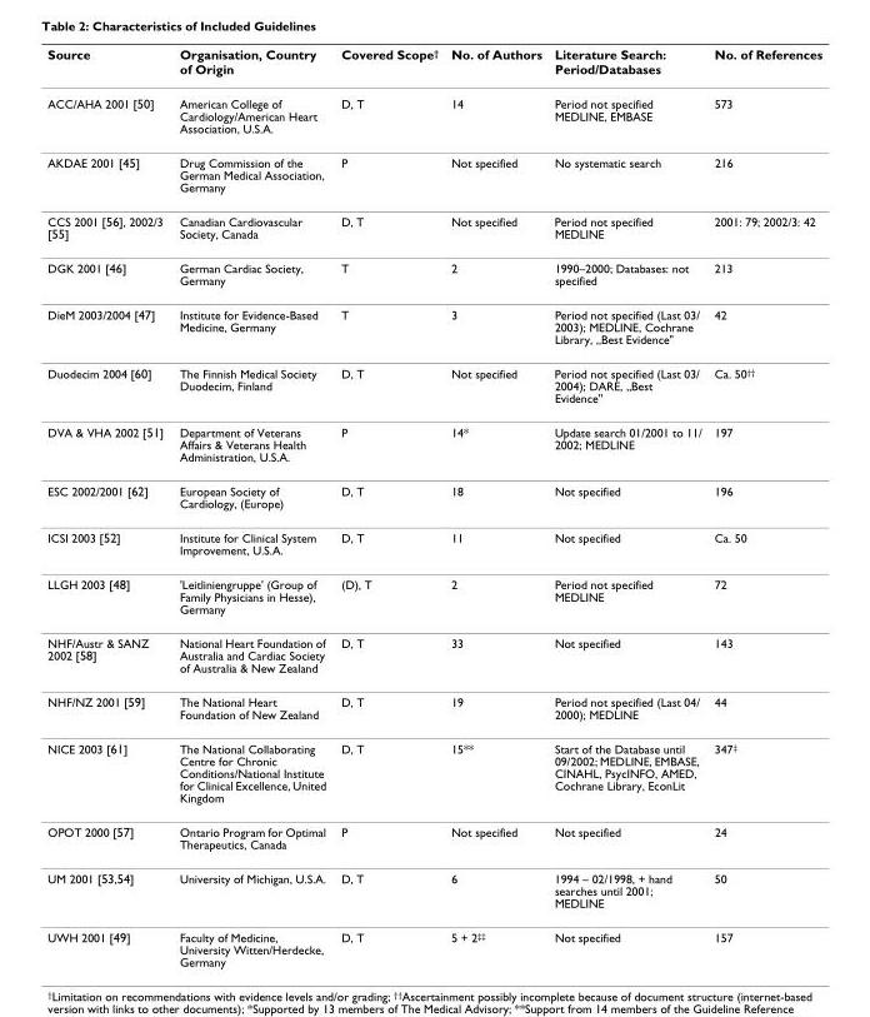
<table><thead><tr><td>Source</td><td>Organisation, Country of Origin</td><td>Covered Scope<sup>†</sup></td><td>No. of Authors</td><td>Literature Search: Period/Databases</td><td>No. of References</td></tr></thead><tbody><tr><td>ACC/AHA 2001 [50]</td><td>American College of Cardiology/American Heart Association, U.S.A.</td><td>D, T</td><td>14</td><td>Period not specified MEDLINE, EMBASE</td><td>573</td></tr><tr><td>AKDAE 2001 [45]</td><td>Drug Commission of the German Medical Association, Germany</td><td>P</td><td>Not specified</td><td>No systematic search</td><td>216</td></tr><tr><td>CCS 2001 [56], 2002/3 [55]</td><td>Canadian Cardiovascular Society, Canada</td><td>D, T</td><td>Not specified</td><td>Period not specified MEDLINE</td><td>2001: 79; 2002/3: 42</td></tr><tr><td>DGK 2001 [46]</td><td>German Cardiac Society, Germany</td><td>T</td><td>2</td><td>1990–2000; Databases: not specified</td><td>213</td></tr><tr><td>DieM 2003/2004 [47]</td><td>Institute for Evidence-Based Medicine, Germany</td><td>T</td><td>3</td><td>Period not specified (Last 03/ 2003); MEDLINE, Cochrane Library, „Best Evidence&quot;</td><td>42</td></tr><tr><td>Duodecim 2004 [60]</td><td>The Finnish Medical Society Duodecim, Finland</td><td>D, T</td><td>Not specified</td><td>Period not specified (Last 03/ 2004); DARE, „Best Evidence&quot;</td><td>Ca. 50<sup>††</sup></td></tr><tr><td>DVA &amp; VHA 2002 [51]</td><td>Department of Veterans Affairs &amp; Veterans Health Administration, U.S.A.</td><td>P</td><td>14*</td><td>Update search 01/2001 to 11/ 2002; MEDLINE</td><td>197</td></tr><tr><td>ESC 2002/2001 [62]</td><td>European Society of Cardiology, (Europe)</td><td>D, T</td><td>18</td><td>Not specified</td><td>196</td></tr><tr><td>ICSI 2003 [52]</td><td>Institute for Clinical System Improvement, U.S.A.</td><td>D, T</td><td>11</td><td>Not specified</td><td>Ca. 50</td></tr><tr><td>LLGH 2003 [48]</td><td>&#x27;Leitliniengruppe&#x27; (Group of Family Physicians in Hesse), Germany</td><td>(D), T</td><td>2</td><td>Period not specified MEDLINE</td><td>72</td></tr><tr><td>NHF/Austr &amp; SANZ 2002 [58]</td><td>National Heart Foundation of Australia and Cardiac Society of Australia &amp; New Zealand</td><td>D, T</td><td>33</td><td>Not specified</td><td>143</td></tr><tr><td>NHF/NZ 2001 [59]</td><td>The National Heart Foundation of New Zealand</td><td>D, T</td><td>19</td><td>Period not specified (Last 04/ 2000); MEDLINE</td><td>44</td></tr><tr><td>NICE 2003 [61]</td><td>The National Collaborating Centre for Chronic Conditions/National Institute for Clinical Excellence, United Kingdom</td><td>D, T</td><td>15**</td><td>Start of the Database until 09/2002; MEDLINE, EMBASE, CINAHL, PsycINFO, AMED, Cochrane Library, EconLit</td><td>347<sup>‡</sup></td></tr><tr><td>OPOT 2000 [57]</td><td>Ontario Program for Optimal Therapeutics, Canada</td><td>P</td><td>Not specified</td><td>Not specified</td><td>24</td></tr><tr><td>UM 2001 [53,54]</td><td>University of Michigan, U.S.A.</td><td>D, T</td><td>6</td><td>1994 – 02/1998, + hand searches until 2001; MEDLINE</td><td>50</td></tr><tr><td>UWH 2001 [49]</td><td>Faculty of Medicine, University Witten/Herdecke, Germany</td><td>D, T</td><td>5 + 2<sup>‡‡</sup></td><td>Not specified</td><td>157</td></tr></tbody></table>